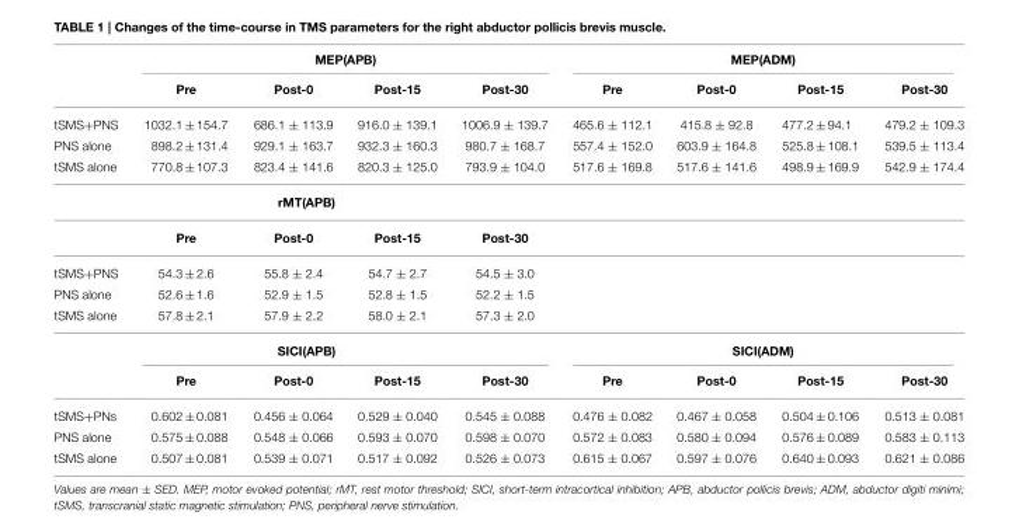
<table><thead><tr><td rowspan="2"></td><td colspan="4">MEP(APB)</td><td colspan="4">MEP(ADM)</td></tr><tr><td>Pre</td><td>Post-0</td><td>Post-15</td><td>Post-30</td><td>Pre</td><td>Post-0</td><td>Post-15</td><td>Post-30</td></tr></thead><tbody><tr><td>tSMS+PNS</td><td>1032.1 ± 154.7</td><td>686.1 ± 113.9</td><td>916.0 ± 139.1</td><td>1006.9 ± 139.7</td><td>465.6 ± 112.1</td><td>415.8 ± 92.8</td><td>477.2 ± 94.1</td><td>479.2 ± 109.3</td></tr><tr><td>PNS alone</td><td>898.2 ± 131.4</td><td>929.1 ± 163.7</td><td>932.3 ± 160.3</td><td>980.7 ± 168.7</td><td>557.4 ± 152.0</td><td>603.9 ± 164.8</td><td>525.8 ± 108.1</td><td>539.5 ± 113.4</td></tr><tr><td>tSMS alone</td><td>770.8 ± 107.3</td><td>823.4 ± 141.6</td><td>820.3 ± 125.0</td><td>793.9 ± 104.0</td><td>517.6 ± 169.8</td><td>517.6 ± 141.6</td><td>498.9 ± 169.9</td><td>542.9 ± 174.4</td></tr><tr><td colspan="9">rMT(APB)</td></tr><tr><td></td><td>Pre</td><td>Post-0</td><td>Post-15</td><td>Post-30</td><td></td><td></td><td></td><td></td></tr><tr><td>tSMS+PNS</td><td>54.3 ± 2.6</td><td>55.8 ± 2.4</td><td>54.7 ± 2.7</td><td>54.5 ± 3.0</td><td></td><td></td><td></td><td></td></tr><tr><td>PNS alone</td><td>52.6 ± 1.6</td><td>52.9 ± 1.5</td><td>52.8 ± 1.5</td><td>52.2 ± 1.5</td><td></td><td></td><td></td><td></td></tr><tr><td rowspan="3">tSMS alone</td><td>57.8 ± 2.1</td><td>57.9 ± 2.2</td><td>58.0 ± 2.1</td><td>57.3 ± 2.0</td><td></td><td></td><td></td><td></td></tr><tr><td colspan="4">SICI(APB)</td><td colspan="4">SICI(ADM)</td></tr><tr><td>Pre</td><td>Post-0</td><td>Post-15</td><td>Post-30</td><td>Pre</td><td>Post-0</td><td>Post-15</td><td>Post-30</td></tr><tr><td>tSMS+PNs</td><td>0.602 ± 0.081</td><td>0.456 ± 0.064</td><td>0.529 ± 0.040</td><td>0.545 ± 0.088</td><td>0.476 ± 0.082</td><td>0.467 ± 0.058</td><td>0.504 ± 0.106</td><td>0.513 ± 0.081</td></tr><tr><td>PNS alone</td><td>0.575 ± 0.088</td><td>0.548 ± 0.066</td><td>0.593 ± 0.070</td><td>0.598 ± 0.070</td><td>0.572 ± 0.083</td><td>0.580 ± 0.094</td><td>0.576 ± 0.089</td><td>0.583 ± 0.113</td></tr><tr><td>tSMS alone</td><td>0.507 ± 0.081</td><td>0.539 ± 0.071</td><td>0.517 ± 0.092</td><td>0.526 ± 0.073</td><td>0.615 ± 0.067</td><td>0.597 ± 0.076</td><td>0.640 ± 0.093</td><td>0.621 ± 0.086</td></tr></tbody></table>